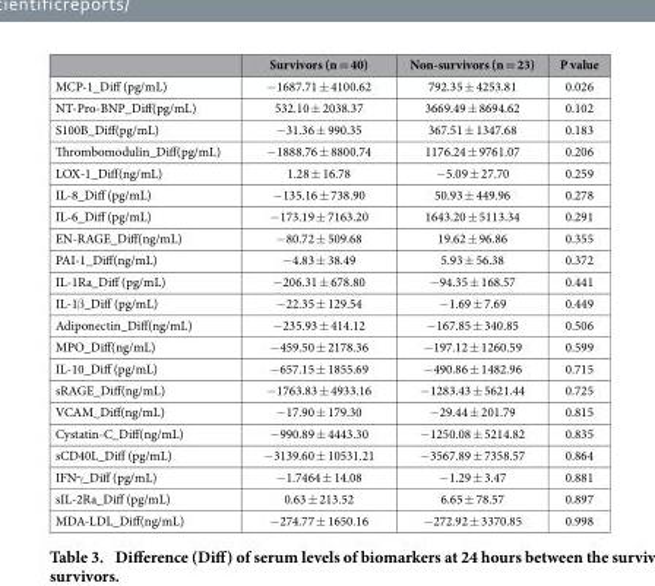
<table><thead><tr><td></td><td>Survivors (n = 40)</td><td>Non-survivors (n = 23)</td><td>P value</td></tr></thead><tbody><tr><td>MCP-1_Diff (pg/mL)</td><td>− 1687.71 ± 4100.62</td><td>792.35 ± 4253.81</td><td>0.026</td></tr><tr><td>NT-Pro-BNP_Diff(pg/mL)</td><td>532.10 ± 2038.37</td><td>3669.49 ± 8694.62</td><td>0.102</td></tr><tr><td>S100B_Diff(pg/mL)</td><td>− 31.36 ± 990.35</td><td>367.51 ± 1347.68</td><td>0.183</td></tr><tr><td>Thrombomodulin_Diff(pg/mL)</td><td>− 1888.76 ± 8800.74</td><td>1176.24 ± 9761.07</td><td>0.206</td></tr><tr><td>LOX-1_Diff(ng/mL)</td><td>1.28 ± 16.78</td><td>− 5.09 ± 27.70</td><td>0.259</td></tr><tr><td>IL-8_Diff (pg/mL)</td><td>− 135.16 ± 738.90</td><td>50.93 ± 449.96</td><td>0.278</td></tr><tr><td>IL-6_Diff (pg/mL)</td><td>− 173.19 ± 7163.20</td><td>1643.20 ± 5113.34</td><td>0.291</td></tr><tr><td>EN-RAGE_Diff(ng/mL)</td><td>− 80.72 ± 509.68</td><td>19.62 ± 96.86</td><td>0.355</td></tr><tr><td>PAI-1_Diff(ng/mL)</td><td>− 4.83 ± 38.49</td><td>5.93 ± 56.38</td><td>0.372</td></tr><tr><td>IL-1Ra_Diff (pg/mL)</td><td>− 206.31 ± 678.80</td><td>− 94.35 ± 168.57</td><td>0.441</td></tr><tr><td>IL-1β _Diff (pg/mL)</td><td>− 22.35 ± 129.54</td><td>− 1.69 ± 7.69</td><td>0.449</td></tr><tr><td>Adiponectin_Diff(ng/mL)</td><td>− 235.93 ± 414.12</td><td>− 167.85 ± 340.85</td><td>0.506</td></tr><tr><td>MPO_Diff(ng/mL)</td><td>− 459.50 ± 2178.36</td><td>− 197.12 ± 1260.59</td><td>0.599</td></tr><tr><td>IL-10_Diff (pg/mL)</td><td>− 657.15 ± 1855.69</td><td>− 490.86 ± 1482.96</td><td>0.715</td></tr><tr><td>sRAGE_Diff(ng/mL)</td><td>− 1763.83 ± 4933.16</td><td>− 1283.43 ± 5621.44</td><td>0.725</td></tr><tr><td>VCAM_Diff(ng/mL)</td><td>− 17.90 ± 179.30</td><td>− 29.44 ± 201.79</td><td>0.815</td></tr><tr><td>Cystatin-C_Diff(ng/mL)</td><td>− 990.89 ± 4443.30</td><td>− 1250.08 ± 5214.82</td><td>0.835</td></tr><tr><td>sCD40L_Diff (pg/mL)</td><td>− 3139.60 ± 10531.21</td><td>− 3567.89 ± 7358.57</td><td>0.864</td></tr><tr><td>IFNγ _Diff (pg/mL)</td><td>− 1.7464 ± 14.08</td><td>− 1.29 ± 3.47</td><td>0.881</td></tr><tr><td>sIL-2Ra_Diff (pg/mL)</td><td>0.63 ± 213.52</td><td>6.65 ± 78.57</td><td>0.897</td></tr><tr><td>MDA-LDL_Diff(ng/mL)</td><td>− 274.77 ± 1650.16</td><td>− 272.92 ± 3370.85</td><td>0.998</td></tr></tbody></table>